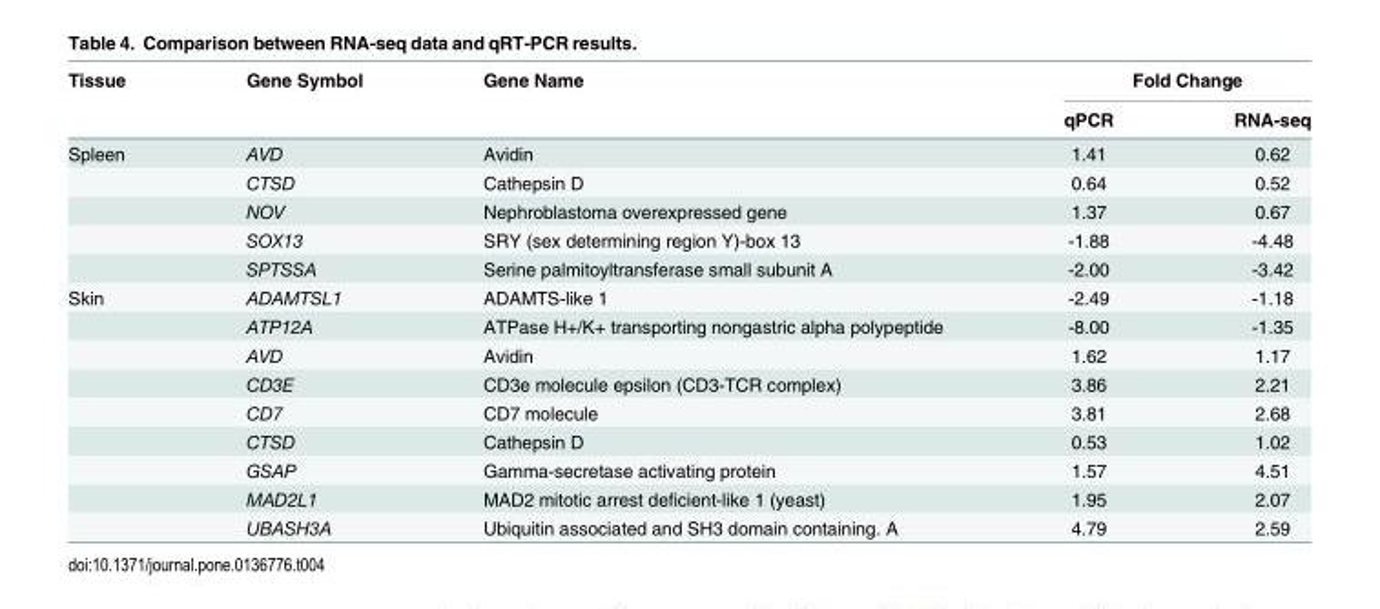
<table><thead><tr><td rowspan="2">Tissue</td><td rowspan="2">Gene Symbol</td><td rowspan="2">Gene Name</td><td colspan="2">Fold Change</td></tr><tr><td>qPCR</td><td>RNA-seq</td></tr></thead><tbody><tr><td rowspan="5">Spleen</td><td>AVD</td><td>Avidin</td><td>1.41</td><td>0.62</td></tr><tr><td>CTSD</td><td>Cathepsin D</td><td>0.64</td><td>0.52</td></tr><tr><td>NOV</td><td>Nephroblastoma overexpressed gene</td><td>1.37</td><td>0.67</td></tr><tr><td>SOX13</td><td>SRY (sex determining region Y)-box 13</td><td>-1.88</td><td>-4.48</td></tr><tr><td>SPTSSA</td><td>Serine palmitoyltransferase small subunit A</td><td>-2.00</td><td>-3.42</td></tr><tr><td rowspan="9">Skin</td><td>ADAMTSL1</td><td>ADAMTS-like 1</td><td>-2.49</td><td>-1.18</td></tr><tr><td>ATP12A</td><td>ATPase H+/K+ transporting nongastric alpha polypeptide</td><td>-8.00</td><td>-1.35</td></tr><tr><td>AVD</td><td>Avidin</td><td>1.62</td><td>1.17</td></tr><tr><td>CD3E</td><td>CD3e molecule epsilon (CD3-TCR complex)</td><td>3.86</td><td>2.21</td></tr><tr><td>CD7</td><td>CD7 molecule</td><td>3.81</td><td>2.68</td></tr><tr><td>CTSD</td><td>Cathepsin D</td><td>0.53</td><td>1.02</td></tr><tr><td>GSAP</td><td>Gamma-secretase activating protein</td><td>1.57</td><td>4.51</td></tr><tr><td>MAD2L1</td><td>MAD2 mitotic arrest deficient-like 1 (yeast)</td><td>1.95</td><td>2.07</td></tr><tr><td>UBASH3A</td><td>Ubiquitin associated and SH3 domain containing. A</td><td>4.79</td><td>2.59</td></tr></tbody></table>